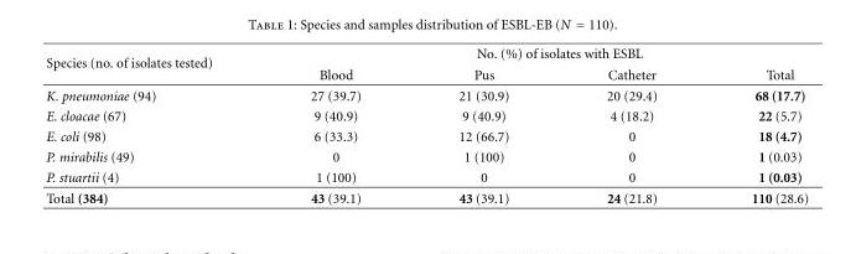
<table><thead><tr><td rowspan="2">Species (no. of isolates tested)</td><td colspan="4">No. (%) of isolates with ESBL</td></tr><tr><td>Blood</td><td>Pus</td><td>Catheter</td><td>Total</td></tr></thead><tbody><tr><td>K. pneumoniae (94)</td><td>27 (39.7)</td><td>21 (30.9)</td><td>20 (29.4)</td><td>68 (17.7)</td></tr><tr><td>E. cloacae (67)</td><td>9 (40.9)</td><td>9 (40.9)</td><td>4 (18.2)</td><td>22 (5.7)</td></tr><tr><td>E. coli (98)</td><td>6 (33.3)</td><td>12 (66.7)</td><td>0</td><td>18 (4.7)</td></tr><tr><td>P. mirabilis (49)</td><td>0</td><td>1 (100)</td><td>0</td><td>1 (0.03)</td></tr><tr><td>P. stuartii (4)</td><td>1 (100)</td><td>0</td><td>0</td><td>1 (0.03)</td></tr><tr><td>Total (384)</td><td>43 (39.1)</td><td>43 (39.1)</td><td>24 (21.8)</td><td>110 (28.6)</td></tr></tbody></table>